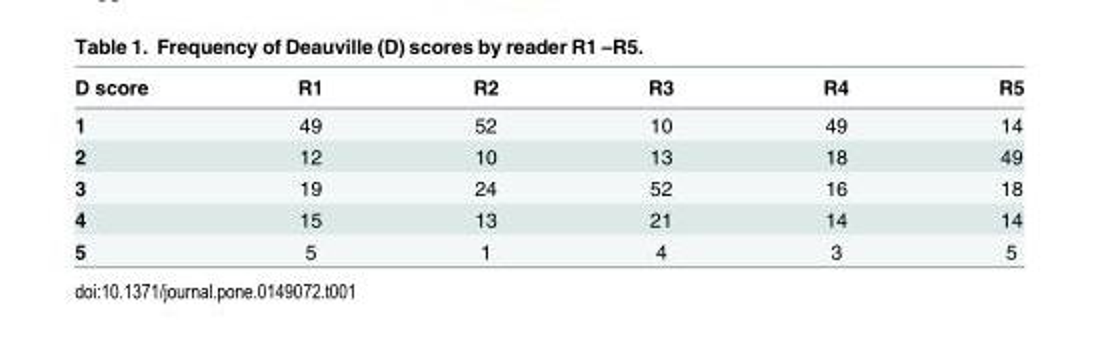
<table><thead><tr><td>D score</td><td>R1</td><td>R2</td><td>R3</td><td>R4</td><td>R5</td></tr></thead><tbody><tr><td>1</td><td>49</td><td>52</td><td>10</td><td>49</td><td>14</td></tr><tr><td>2</td><td>12</td><td>10</td><td>13</td><td>18</td><td>49</td></tr><tr><td>3</td><td>19</td><td>24</td><td>52</td><td>16</td><td>18</td></tr><tr><td>4</td><td>15</td><td>13</td><td>21</td><td>14</td><td>14</td></tr><tr><td>5</td><td>5</td><td>1</td><td>4</td><td>3</td><td>5</td></tr></tbody></table>